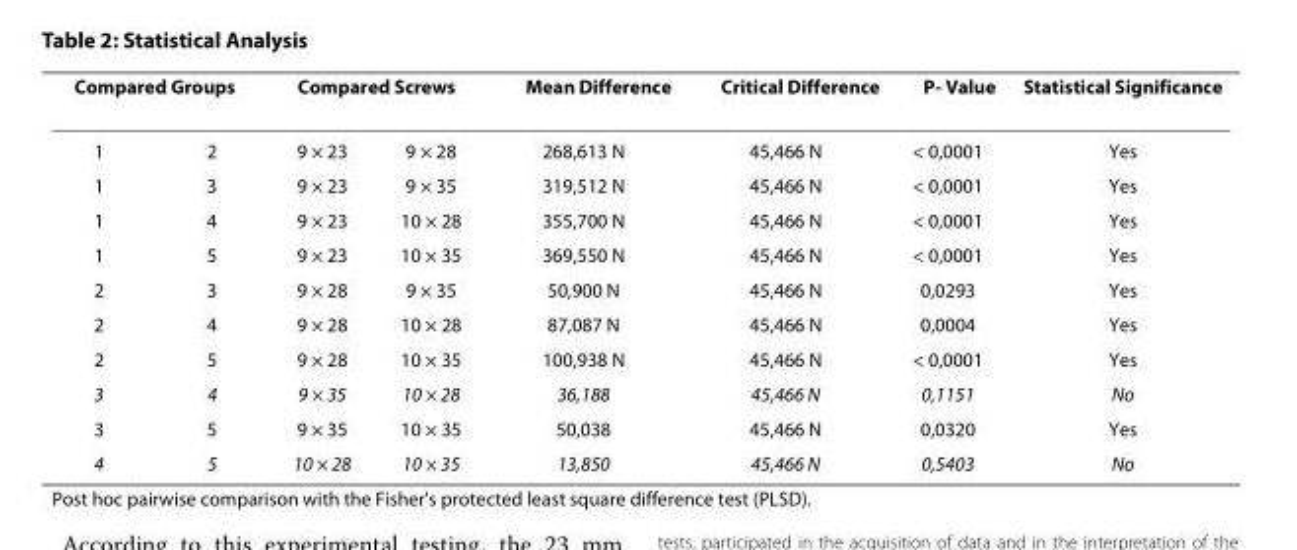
<table><thead><tr><td colspan="2">Compared Groups</td><td colspan="2">Compared Screws</td><td rowspan="2">Mean Difference 268,613 N</td><td rowspan="2">Critical Difference 45,466 N</td><td rowspan="2">P- Value &lt; 0,0001</td><td rowspan="2">Statistical Significance Yes</td></tr><tr><td>1</td><td>2</td><td>9 × 23</td><td>9 × 28</td></tr></thead><tbody><tr><td>1</td><td>3</td><td>9 × 23</td><td>9 × 35</td><td>319,512 N</td><td>45,466 N</td><td>&lt; 0,0001</td><td>Yes</td></tr><tr><td>1</td><td>4</td><td>9 × 23</td><td>10 × 28</td><td>355,700 N</td><td>45,466 N</td><td>&lt; 0,0001</td><td>Yes</td></tr><tr><td>1</td><td>5</td><td>9 × 23</td><td>10 × 35</td><td>369,550 N</td><td>45,466 N</td><td>&lt; 0,0001</td><td>Yes</td></tr><tr><td>2</td><td>3</td><td>9 × 28</td><td>9 × 35</td><td>50,900 N</td><td>45,466 N</td><td>0,0293</td><td>Yes</td></tr><tr><td>2</td><td>4</td><td>9 × 28</td><td>10 × 28</td><td>87,087 N</td><td>45,466 N</td><td>0,0004</td><td>Yes</td></tr><tr><td>2</td><td>5</td><td>9 × 28</td><td>10 × 35</td><td>100,938 N</td><td>45,466 N</td><td>&lt; 0,0001</td><td>Yes</td></tr><tr><td>3</td><td>4</td><td>9 × 35</td><td>10 × 28</td><td>36,188</td><td>45,466 N</td><td>0,1151</td><td>No</td></tr><tr><td>3</td><td>5</td><td>9 × 35</td><td>10 × 35</td><td>50,038</td><td>45,466 N</td><td>0,0320</td><td>Yes</td></tr><tr><td>4</td><td>5</td><td>10 × 28</td><td>10 × 35</td><td>13,850</td><td>45,466 N</td><td>0,5403</td><td>No</td></tr></tbody></table>